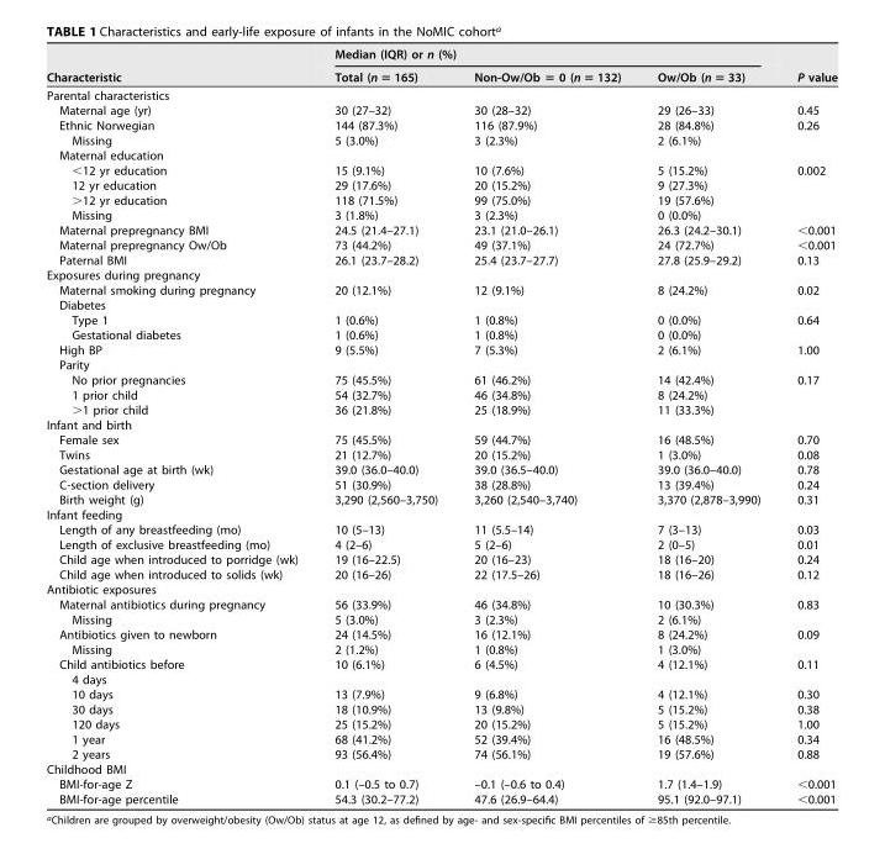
<table><thead><tr><td rowspan="2">Characteristic</td><td colspan="3">Median (IQR) or n (%)</td><td rowspan="2">P value</td></tr><tr><td>Total (n = 165)</td><td>Non-Ow/Ob = 0 (n = 132)</td><td>Ow/Ob (n = 33)</td></tr></thead><tbody><tr><td colspan="5">Parental characteristics</td></tr><tr><td>Maternal age (yr)</td><td>30 (27–32)</td><td>30 (28–32)</td><td>29 (26–33)</td><td>0.45</td></tr><tr><td>Ethnic Norwegian</td><td>144 (87.3%)</td><td>116 (87.9%)</td><td>28 (84.8%)</td><td>0.26</td></tr><tr><td>Missing</td><td>5 (3.0%)</td><td>3 (2.3%)</td><td>2 (6.1%)</td><td></td></tr><tr><td colspan="5">Maternal education</td></tr><tr><td>&lt;12 yr education</td><td>15 (9.1%)</td><td>10 (7.6%)</td><td>5 (15.2%)</td><td>0.002</td></tr><tr><td>12 yr education</td><td>29 (17.6%)</td><td>20 (15.2%)</td><td>9 (27.3%)</td><td></td></tr><tr><td>&gt;12 yr education</td><td>118 (71.5%)</td><td>99 (75.0%)</td><td>19 (57.6%)</td><td></td></tr><tr><td>Missing</td><td>3 (1.8%)</td><td>3 (2.3%)</td><td>0 (0.0%)</td><td></td></tr><tr><td>Maternal prepregnancy BMI</td><td>24.5 (21.4–27.1)</td><td>23.1 (21.0–26.1)</td><td>26.3 (24.2–30.1)</td><td>&lt;0.001</td></tr><tr><td>Maternal prepregnancy Ow/Ob</td><td>73 (44.2%)</td><td>49 (37.1%)</td><td>24 (72.7%)</td><td>&lt;0.001</td></tr><tr><td>Paternal BMI</td><td>26.1 (23.7–28.2)</td><td>25.4 (23.7–27.7)</td><td>27.8 (25.9–29.2)</td><td>0.13</td></tr><tr><td colspan="5">Exposures during pregnancy</td></tr><tr><td>Maternal smoking during pregnancy</td><td>20 (12.1%)</td><td>12 (9.1%)</td><td>8 (24.2%)</td><td>0.02</td></tr><tr><td colspan="5">Diabetes</td></tr><tr><td>Type 1</td><td>1 (0.6%)</td><td>1 (0.8%)</td><td>0 (0.0%)</td><td>0.64</td></tr><tr><td>Gestational diabetes</td><td>1 (0.6%)</td><td>1 (0.8%)</td><td>0 (0.0%)</td><td></td></tr><tr><td>High BP</td><td>9 (5.5%)</td><td>7 (5.3%)</td><td>2 (6.1%)</td><td>1.00</td></tr><tr><td colspan="5">Parity</td></tr><tr><td>No prior pregnancies</td><td>75 (45.5%)</td><td>61 (46.2%)</td><td>14 (42.4%)</td><td>0.17</td></tr><tr><td>1 prior child</td><td>54 (32.7%)</td><td>46 (34.8%)</td><td>8 (24.2%)</td><td></td></tr><tr><td>&gt;1 prior child</td><td>36 (21.8%)</td><td>25 (18.9%)</td><td>11 (33.3%)</td><td></td></tr><tr><td colspan="5">Infant and birth</td></tr><tr><td>Female sex</td><td>75 (45.5%)</td><td>59 (44.7%)</td><td>16 (48.5%)</td><td>0.70</td></tr><tr><td>Twins</td><td>21 (12.7%)</td><td>20 (15.2%)</td><td>1 (3.0%)</td><td>0.08</td></tr><tr><td>Gestational age at birth (wk)</td><td>39.0 (36.0–40.0)</td><td>39.0 (36.5–40.0)</td><td>39.0 (36.0–40.0)</td><td>0.78</td></tr><tr><td>C-section delivery</td><td>51 (30.9%)</td><td>38 (28.8%)</td><td>13 (39.4%)</td><td>0.24</td></tr><tr><td>Birth weight (g)</td><td>3,290 (2,560–3,750)</td><td>3,260 (2,540–3,740)</td><td>3,370 (2,878–3,990)</td><td>0.31</td></tr><tr><td colspan="5">Infant feeding</td></tr><tr><td>Length of any breastfeeding (mo)</td><td>10 (5–13)</td><td>11 (5.5–14)</td><td>7 (3–13)</td><td>0.03</td></tr><tr><td>Length of exclusive breastfeeding (mo)</td><td>4 (2–6)</td><td>5 (2–6)</td><td>2 (0–5)</td><td>0.01</td></tr><tr><td>Child age when introduced to porridge (wk)</td><td>19 (16–22.5)</td><td>20 (16–23)</td><td>18 (16–20)</td><td>0.24</td></tr><tr><td>Child age when introduced to solids (wk)</td><td>20 (16–26)</td><td>22 (17.5–26)</td><td>18 (16–26)</td><td>0.12</td></tr><tr><td colspan="5">Antibiotic exposures</td></tr><tr><td>Maternal antibiotics during pregnancy</td><td>56 (33.9%)</td><td>46 (34.8%)</td><td>10 (30.3%)</td><td>0.83</td></tr><tr><td>Missing</td><td>5 (3.0%)</td><td>3 (2.3%)</td><td>2 (6.1%)</td><td></td></tr><tr><td>Antibiotics given to newborn</td><td>24 (14.5%)</td><td>16 (12.1%)</td><td>8 (24.2%)</td><td>0.09</td></tr><tr><td>Missing</td><td>2 (1.2%)</td><td>1 (0.8%)</td><td>1 (3.0%)</td><td></td></tr><tr><td>Child antibiotics before</td><td>10 (6.1%)</td><td>6 (4.5%)</td><td>4 (12.1%)</td><td>0.11</td></tr><tr><td colspan="5">4 days</td></tr><tr><td>10 days</td><td>13 (7.9%)</td><td>9 (6.8%)</td><td>4 (12.1%)</td><td>0.30</td></tr><tr><td>30 days</td><td>18 (10.9%)</td><td>13 (9.8%)</td><td>5 (15.2%)</td><td>0.38</td></tr><tr><td>120 days</td><td>25 (15.2%)</td><td>20 (15.2%)</td><td>5 (15.2%)</td><td>1.00</td></tr><tr><td>1 year</td><td>68 (41.2%)</td><td>52 (39.4%)</td><td>16 (48.5%)</td><td>0.34</td></tr><tr><td>2 years</td><td>93 (56.4%)</td><td>74 (56.1%)</td><td>19 (57.6%)</td><td>0.88</td></tr><tr><td colspan="5">Childhood BMI</td></tr><tr><td>BMI-for-age Z</td><td>0.1 (–0.5 to 0.7)</td><td>–0.1 (–0.6 to 0.4)</td><td>1.7 (1.4–1.9)</td><td>&lt;0.001</td></tr><tr><td>BMI-for-age percentile</td><td>54.3 (30.2–77.2)</td><td>47.6 (26.9–64.4)</td><td>95.1 (92.0–97.1)</td><td>&lt;0.001</td></tr></tbody></table>